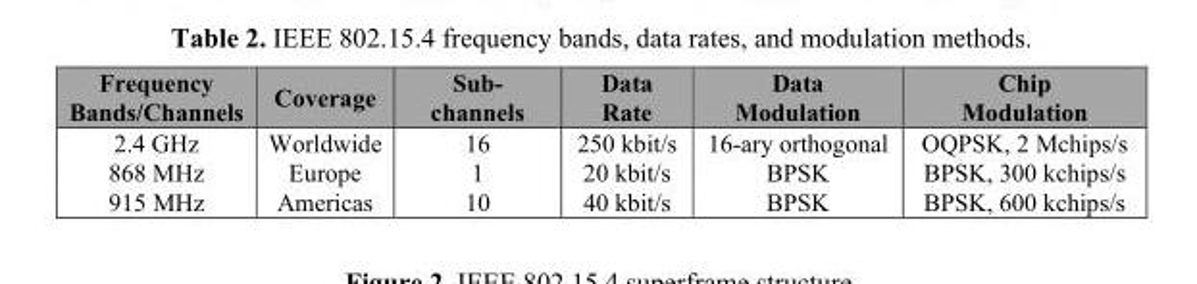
<table><thead><tr><td>Frequency Bands/Channels</td><td>Coverage</td><td>Sub- channels</td><td>Data Rate</td><td>Data Modulation</td><td>Chip Modulation</td></tr></thead><tbody><tr><td>2.4 GHz</td><td>Worldwide</td><td>16</td><td>250 kbit/s</td><td>16-ary orthogonal</td><td>OQPSK, 2 Mchips/s</td></tr><tr><td>868 MHz</td><td>Europe</td><td>1</td><td>20 kbit/s</td><td>BPSK</td><td>BPSK, 300 kchips/s</td></tr><tr><td>915 MHz</td><td>Americas</td><td>10</td><td>40 kbit/s</td><td>BPSK</td><td>BPSK, 600 kchips/s</td></tr></tbody></table>